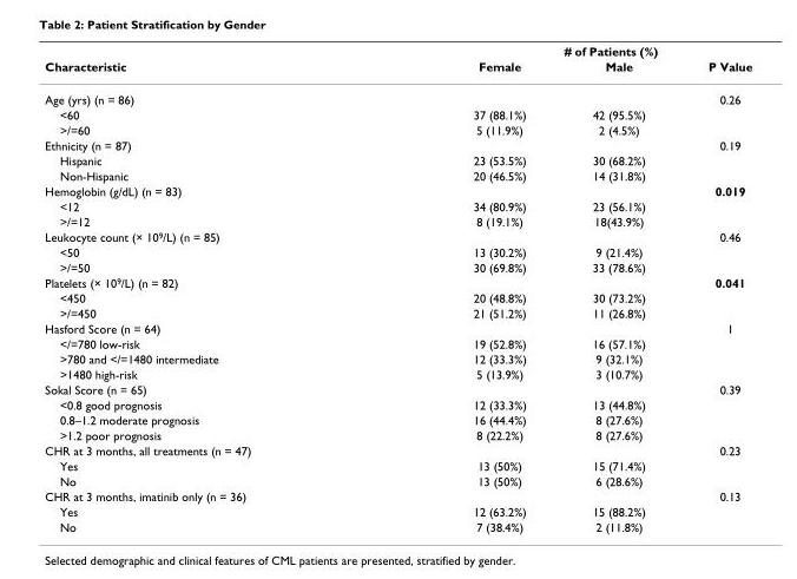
<table><thead><tr><td rowspan="2">Characteristic</td><td colspan="3"># of Patients (%)</td></tr><tr><td>Female</td><td>Male</td><td>P Value</td></tr></thead><tbody><tr><td>Age (yrs) (n = 86)</td><td></td><td></td><td>0.26</td></tr><tr><td>&lt;60</td><td>37 (88.1%)</td><td>42 (95.5%)</td><td></td></tr><tr><td>&gt;/=60</td><td>5 (11.9%)</td><td>2 (4.5%)</td><td></td></tr><tr><td>Ethnicity (n = 87)</td><td></td><td></td><td>0.19</td></tr><tr><td>Hispanic</td><td>23 (53.5%)</td><td>30 (68.2%)</td><td></td></tr><tr><td>Non-Hispanic</td><td>20 (46.5%)</td><td>14 (31.8%)</td><td></td></tr><tr><td>Hemoglobin (g/dL) (n = 83)</td><td></td><td></td><td>0.019</td></tr><tr><td>&lt;12</td><td>34 (80.9%)</td><td>23 (56.1%)</td><td></td></tr><tr><td>&gt;/=12</td><td>8 (19.1%)</td><td>18(43.9%)</td><td></td></tr><tr><td>Leukocyte count (× 10<sup>9</sup>/L) (n = 85)</td><td></td><td></td><td>0.46</td></tr><tr><td>&lt;50</td><td>13 (30.2%)</td><td>9 (21.4%)</td><td></td></tr><tr><td>&gt;/=50</td><td>30 (69.8%)</td><td>33 (78.6%)</td><td></td></tr><tr><td>Platelets (× 10<sup>9</sup>/L) (n = 82)</td><td></td><td></td><td>0.041</td></tr><tr><td>&lt;450</td><td>20 (48.8%)</td><td>30 (73.2%)</td><td></td></tr><tr><td>&gt;/=450</td><td>21 (51.2%)</td><td>11 (26.8%)</td><td></td></tr><tr><td>Hasford Score (n = 64)</td><td></td><td></td><td>1</td></tr><tr><td>&lt;/=780 low-risk</td><td>19 (52.8%)</td><td>16 (57.1%)</td><td></td></tr><tr><td>&gt;780 and &lt;/=1480 intermediate</td><td>12 (33.3%)</td><td>9 (32.1%)</td><td></td></tr><tr><td>&gt;1480 high-risk</td><td>5 (13.9%)</td><td>3 (10.7%)</td><td></td></tr><tr><td>Sokal Score (n = 65)</td><td></td><td></td><td>0.39</td></tr><tr><td>&lt;0.8 good prognosis</td><td>12 (33.3%)</td><td>13 (44.8%)</td><td></td></tr><tr><td>0.8–1.2 moderate prognosis</td><td>16 (44.4%)</td><td>8 (27.6%)</td><td></td></tr><tr><td>&gt;1.2 poor prognosis</td><td>8 (22.2%)</td><td>8 (27.6%)</td><td></td></tr><tr><td>CHR at 3 months, all treatments (n = 47)</td><td></td><td></td><td>0.23</td></tr><tr><td>Yes</td><td>13 (50%)</td><td>15 (71.4%)</td><td></td></tr><tr><td>No</td><td>13 (50%)</td><td>6 (28.6%)</td><td></td></tr><tr><td>CHR at 3 months, imatinib only (n = 36)</td><td></td><td></td><td>0.13</td></tr><tr><td>Yes</td><td>12 (63.2%)</td><td>15 (88.2%)</td><td></td></tr><tr><td>No</td><td>7 (38.4%)</td><td>2 (11.8%)</td><td></td></tr></tbody></table>